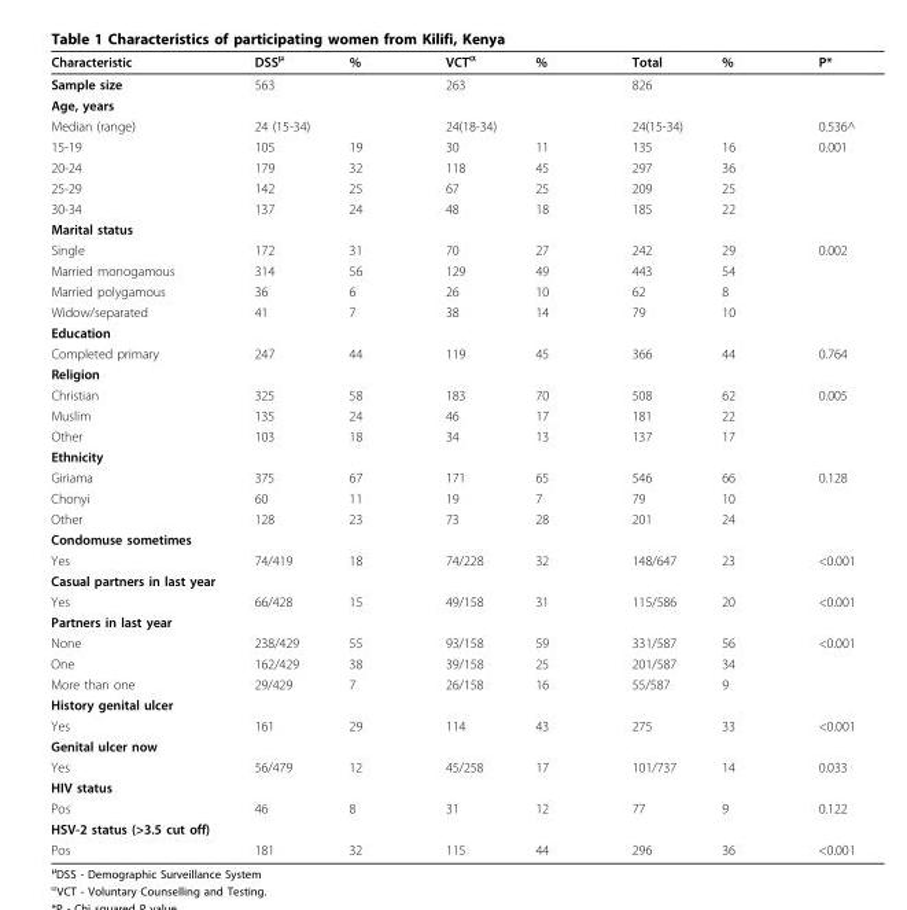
<table><thead><tr><td>Characteristic</td><td>DSS<sup>μ</sup></td><td>%</td><td>VCT<sup>α</sup></td><td>%</td><td>Total</td><td>%</td><td>P*</td></tr></thead><tbody><tr><td>Sample size</td><td>563</td><td></td><td>263</td><td></td><td>826</td><td></td><td></td></tr><tr><td colspan="8">Age, years</td></tr><tr><td>Median (range)</td><td>24 (15-34)</td><td></td><td>24(18-34)</td><td></td><td>24(15-34)</td><td></td><td>0.536^</td></tr><tr><td>15-19</td><td>105</td><td>19</td><td>30</td><td>11</td><td>135</td><td>16</td><td>0.001</td></tr><tr><td>20-24</td><td>179</td><td>32</td><td>118</td><td>45</td><td>297</td><td>36</td><td></td></tr><tr><td>25-29</td><td>142</td><td>25</td><td>67</td><td>25</td><td>209</td><td>25</td><td></td></tr><tr><td>30-34</td><td>137</td><td>24</td><td>48</td><td>18</td><td>185</td><td>22</td><td></td></tr><tr><td colspan="8">Marital status</td></tr><tr><td>Single</td><td>172</td><td>31</td><td>70</td><td>27</td><td>242</td><td>29</td><td>0.002</td></tr><tr><td>Married monogamous</td><td>314</td><td>56</td><td>129</td><td>49</td><td>443</td><td>54</td><td></td></tr><tr><td>Married polygamous</td><td>36</td><td>6</td><td>26</td><td>10</td><td>62</td><td>8</td><td></td></tr><tr><td>Widow/separated</td><td>41</td><td>7</td><td>38</td><td>14</td><td>79</td><td>10</td><td></td></tr><tr><td colspan="8">Education</td></tr><tr><td>Completed primary</td><td>247</td><td>44</td><td>119</td><td>45</td><td>366</td><td>44</td><td>0.764</td></tr><tr><td colspan="8">Religion</td></tr><tr><td>Christian</td><td>325</td><td>58</td><td>183</td><td>70</td><td>508</td><td>62</td><td>0.005</td></tr><tr><td>Muslim</td><td>135</td><td>24</td><td>46</td><td>17</td><td>181</td><td>22</td><td></td></tr><tr><td>Other</td><td>103</td><td>18</td><td>34</td><td>13</td><td>137</td><td>17</td><td></td></tr><tr><td colspan="8">Ethnicity</td></tr><tr><td>Giriama</td><td>375</td><td>67</td><td>171</td><td>65</td><td>546</td><td>66</td><td>0.128</td></tr><tr><td>Chonyi</td><td>60</td><td>11</td><td>19</td><td>7</td><td>79</td><td>10</td><td></td></tr><tr><td>Other</td><td>128</td><td>23</td><td>73</td><td>28</td><td>201</td><td>24</td><td></td></tr><tr><td colspan="8">Condomuse sometimes</td></tr><tr><td>Yes</td><td>74/419</td><td>18</td><td>74/228</td><td>32</td><td>148/647</td><td>23</td><td>&lt;0.001</td></tr><tr><td colspan="8">Casual partners in last year</td></tr><tr><td>Yes</td><td>66/428</td><td>15</td><td>49/158</td><td>31</td><td>115/586</td><td>20</td><td>&lt;0.001</td></tr><tr><td colspan="8">Partners in last year</td></tr><tr><td>None</td><td>238/429</td><td>55</td><td>93/158</td><td>59</td><td>331/587</td><td>56</td><td>&lt;0.001</td></tr><tr><td>One</td><td>162/429</td><td>38</td><td>39/158</td><td>25</td><td>201/587</td><td>34</td><td></td></tr><tr><td>More than one</td><td>29/429</td><td>7</td><td>26/158</td><td>16</td><td>55/587</td><td>9</td><td></td></tr><tr><td colspan="8">History genital ulcer</td></tr><tr><td>Yes</td><td>161</td><td>29</td><td>114</td><td>43</td><td>275</td><td>33</td><td>&lt;0.001</td></tr><tr><td colspan="8">Genital ulcer now</td></tr><tr><td>Yes</td><td>56/479</td><td>12</td><td>45/258</td><td>17</td><td>101/737</td><td>14</td><td>0.033</td></tr><tr><td colspan="8">HIV status</td></tr><tr><td>Pos</td><td>46</td><td>8</td><td>31</td><td>12</td><td>77</td><td>9</td><td>0.122</td></tr><tr><td colspan="8">HSV-2 status (&gt;3.5 cut off)</td></tr><tr><td>Pos</td><td>181</td><td>32</td><td>115</td><td>44</td><td>296</td><td>36</td><td>&lt;0.001</td></tr></tbody></table>